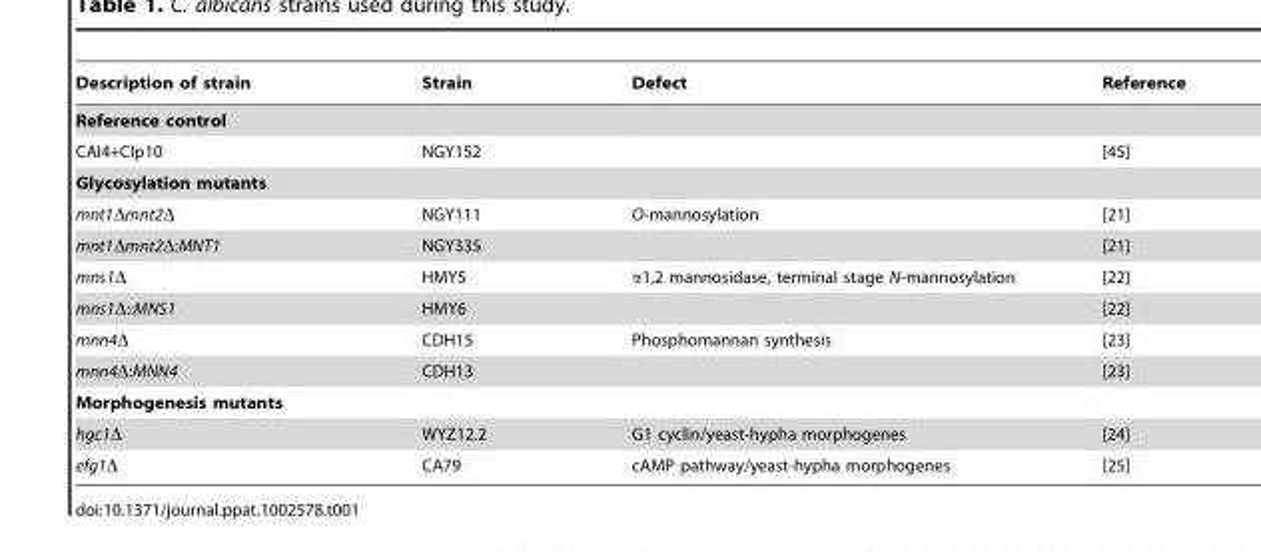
<table><thead><tr><td>Description of strain</td><td>Strain</td><td>Defect</td><td>Reference</td></tr></thead><tbody><tr><td colspan="4">Reference control</td></tr><tr><td>CAI4+CIp10</td><td>NGY152</td><td></td><td>[45]</td></tr><tr><td colspan="4">Glycosylation mutants</td></tr><tr><td>mnt1Δmnt2Δ</td><td>NGY111</td><td>O-mannosylation</td><td>[21]</td></tr><tr><td>mnt1Δmnt2Δ:MNT1</td><td>NGY335</td><td></td><td>[21]</td></tr><tr><td>mns1Δ</td><td>HMY5</td><td>α1,2 mannosidase, terminal stage N-mannosylation</td><td>[22]</td></tr><tr><td>mns1Δ::MNS1</td><td>HMY6</td><td></td><td>[22]</td></tr><tr><td>mnn4Δ</td><td>CDH15</td><td>Phosphomannan synthesis</td><td>[23]</td></tr><tr><td>mnn4Δ:MNN4</td><td>CDH13</td><td></td><td>[23]</td></tr><tr><td colspan="4">Morphogenesis mutants</td></tr><tr><td>hgc1Δ</td><td>WYZ12.2</td><td>G1 cyclin/yeast-hypha morphogenes</td><td>[24]</td></tr><tr><td>efg1Δ</td><td>CA79</td><td>cAMP pathway/yeast-hypha morphogenes</td><td>[25]</td></tr></tbody></table>